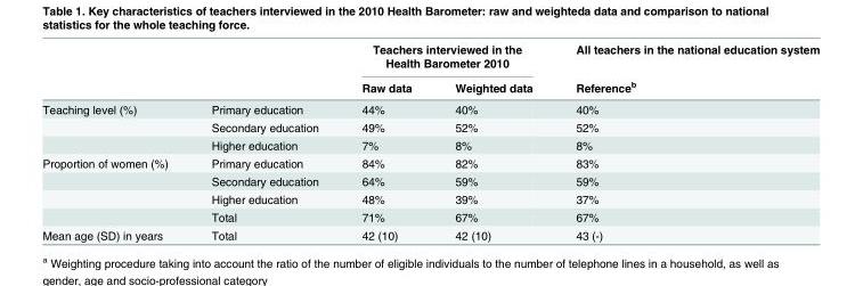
<table><thead><tr><td rowspan="2"></td><td rowspan="2"></td><td colspan="2">Teachers interviewed in the Health Barometer 2010</td><td rowspan="2">All teachers in the national education system Reference<sup>b</sup></td></tr><tr><td>Raw data</td><td>Weighted data</td></tr></thead><tbody><tr><td rowspan="3">Teaching level (%)</td><td>Primary education</td><td>44%</td><td>40%</td><td>40%</td></tr><tr><td>Secondary education</td><td>49%</td><td>52%</td><td>52%</td></tr><tr><td>Higher education</td><td>7%</td><td>8%</td><td>8%</td></tr><tr><td rowspan="4">Proportion of women (%)</td><td>Primary education</td><td>84%</td><td>82%</td><td>83%</td></tr><tr><td>Secondary education</td><td>64%</td><td>59%</td><td>59%</td></tr><tr><td>Higher education</td><td>48%</td><td>39%</td><td>37%</td></tr><tr><td>Total</td><td>71%</td><td>67%</td><td>67%</td></tr><tr><td>Mean age (SD) in years</td><td>Total</td><td>42 (10)</td><td>42 (10)</td><td>43 (-)</td></tr></tbody></table>